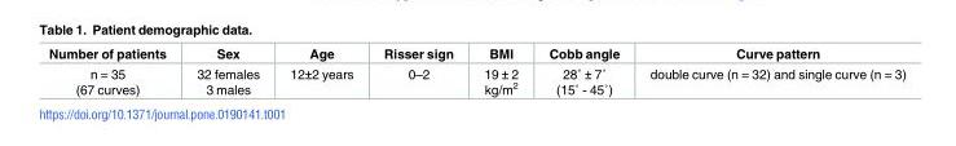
<table><thead><tr><td>Number of patients</td><td>Sex</td><td>Age</td><td>Risser sign</td><td>BMI</td><td>Cobb angle</td><td>Curve pattern</td></tr></thead><tbody><tr><td>n = 35 (67 curves)</td><td>32 females 3 males</td><td>12±2 years</td><td>0–2</td><td>19 ± 2 kg/m<sup>2</sup></td><td>28˚ ± 7˚ (15˚ - 45˚)</td><td>double curve (n = 32) and single curve (n = 3)</td></tr></tbody></table>